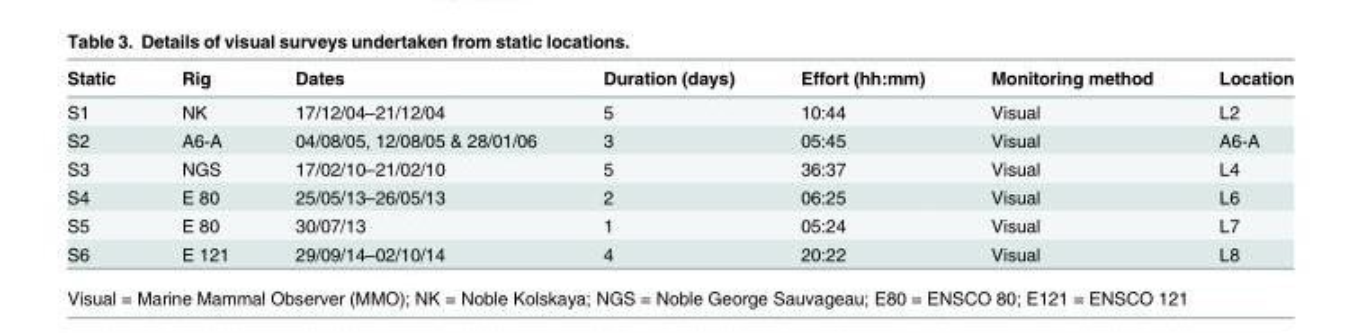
<table><thead><tr><td>Static</td><td>Rig</td><td>Dates</td><td>Duration (days)</td><td>Effort (hh:mm)</td><td>Monitoring method</td><td>Location</td></tr></thead><tbody><tr><td>S1</td><td>NK</td><td>17/12/04–21/12/04</td><td>5</td><td>10:44</td><td>Visual</td><td>L2</td></tr><tr><td>S2</td><td>A6-A</td><td>04/08/05, 12/08/05 &amp; 28/01/06</td><td>3</td><td>05:45</td><td>Visual</td><td>A6-A</td></tr><tr><td>S3</td><td>NGS</td><td>17/02/10–21/02/10</td><td>5</td><td>36:37</td><td>Visual</td><td>L4</td></tr><tr><td>S4</td><td>E 80</td><td>25/05/13–26/05/13</td><td>2</td><td>06:25</td><td>Visual</td><td>L6</td></tr><tr><td>S5</td><td>E 80</td><td>30/07/13</td><td>1</td><td>05:24</td><td>Visual</td><td>L7</td></tr><tr><td>S6</td><td>E 121</td><td>29/09/14–02/10/14</td><td>4</td><td>20:22</td><td>Visual</td><td>L8</td></tr></tbody></table>